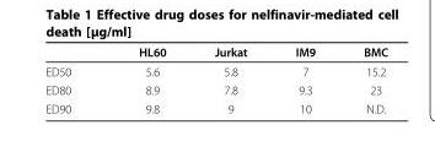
<table><thead><tr><td></td><td>HL60</td><td>Jurkat</td><td>IM9</td><td>BMC</td></tr></thead><tbody><tr><td>ED50</td><td>5.6</td><td>5.8</td><td>7</td><td>15.2</td></tr><tr><td>ED80</td><td>8.9</td><td>7.8</td><td>9.3</td><td>23</td></tr><tr><td>ED90</td><td>9.8</td><td>9</td><td>10</td><td>N.D.</td></tr></tbody></table>